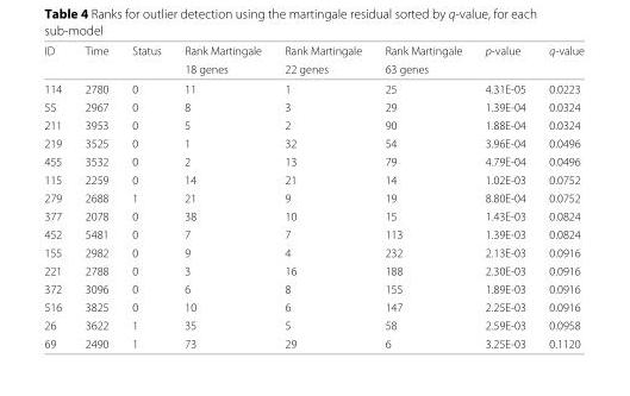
<table><thead><tr><td rowspan="2">ID</td><td rowspan="2">Time</td><td rowspan="2">Status</td><td rowspan="2">Rank Martingale 18 genes</td><td rowspan="2">Rank Martingale 22 genes</td><td rowspan="2">Rank Martingale 63 genes</td><td rowspan="2">p-value</td><td rowspan="2">q-value</td></tr><tr></tr></thead><tbody><tr><td>114</td><td>2780</td><td>0</td><td>11</td><td>1</td><td>25</td><td>4.31E-05</td><td>0.0223</td></tr><tr><td>55</td><td>2967</td><td>0</td><td>8</td><td>3</td><td>29</td><td>1.39E-04</td><td>0.0324</td></tr><tr><td>211</td><td>3953</td><td>0</td><td>5</td><td>2</td><td>90</td><td>1.88E-04</td><td>0.0324</td></tr><tr><td>219</td><td>3525</td><td>0</td><td>1</td><td>32</td><td>54</td><td>3.96E-04</td><td>0.0496</td></tr><tr><td>455</td><td>3532</td><td>0</td><td>2</td><td>13</td><td>79</td><td>4.79E-04</td><td>0.0496</td></tr><tr><td>115</td><td>2259</td><td>0</td><td>14</td><td>21</td><td>14</td><td>1.02E-03</td><td>0.0752</td></tr><tr><td>279</td><td>2688</td><td>1</td><td>21</td><td>9</td><td>19</td><td>8.80E-04</td><td>0.0752</td></tr><tr><td>377</td><td>2078</td><td>0</td><td>38</td><td>10</td><td>15</td><td>1.43E-03</td><td>0.0824</td></tr><tr><td>452</td><td>5481</td><td>0</td><td>7</td><td>7</td><td>113</td><td>1.39E-03</td><td>0.0824</td></tr><tr><td>155</td><td>2982</td><td>0</td><td>9</td><td>4</td><td>232</td><td>2.13E-03</td><td>0.0916</td></tr><tr><td>221</td><td>2788</td><td>0</td><td>3</td><td>16</td><td>188</td><td>2.30E-03</td><td>0.0916</td></tr><tr><td>372</td><td>3096</td><td>0</td><td>6</td><td>8</td><td>155</td><td>1.89E-03</td><td>0.0916</td></tr><tr><td>516</td><td>3825</td><td>0</td><td>10</td><td>6</td><td>147</td><td>2.25E-03</td><td>0.0916</td></tr><tr><td>26</td><td>3622</td><td>1</td><td>35</td><td>5</td><td>58</td><td>2.59E-03</td><td>0.0958</td></tr><tr><td>69</td><td>2490</td><td>1</td><td>73</td><td>29</td><td>6</td><td>3.25E-03</td><td>0.1120</td></tr></tbody></table>